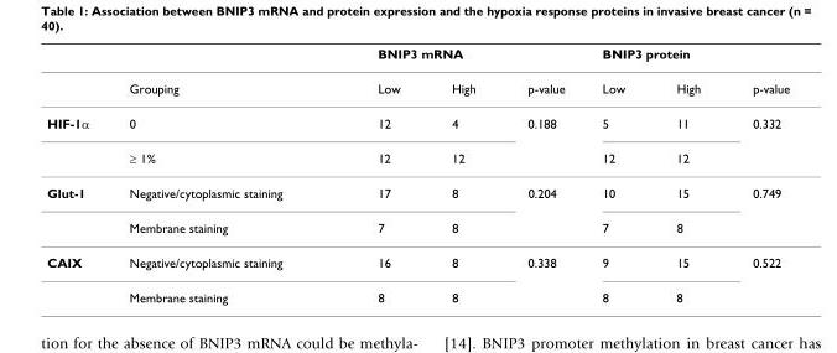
<table><thead><tr><td rowspan="2"></td><td rowspan="2">Grouping</td><td colspan="2">BNIP3 mRNA</td><td rowspan="2">p-value</td><td colspan="2">BNIP3 protein</td><td rowspan="2">p-value</td></tr><tr><td>Low</td><td>High</td><td>Low</td><td>High</td></tr></thead><tbody><tr><td rowspan="2">HIF-1α</td><td>0</td><td>12</td><td>4</td><td>0.188</td><td>5</td><td>11</td><td>0.332</td></tr><tr><td>≥ 1%</td><td>12</td><td>12</td><td></td><td>12</td><td>12</td><td></td></tr><tr><td rowspan="2">Glut-1</td><td>Negative/cytoplasmic staining</td><td>17</td><td>8</td><td>0.204</td><td>10</td><td>15</td><td>0.749</td></tr><tr><td>Membrane staining</td><td>7</td><td>8</td><td></td><td>7</td><td>8</td><td></td></tr><tr><td rowspan="2">CAIX</td><td>Negative/cytoplasmic staining</td><td>16</td><td>8</td><td>0.338</td><td>9</td><td>15</td><td>0.522</td></tr><tr><td>Membrane staining</td><td>8</td><td>8</td><td></td><td>8</td><td>8</td><td></td></tr></tbody></table>